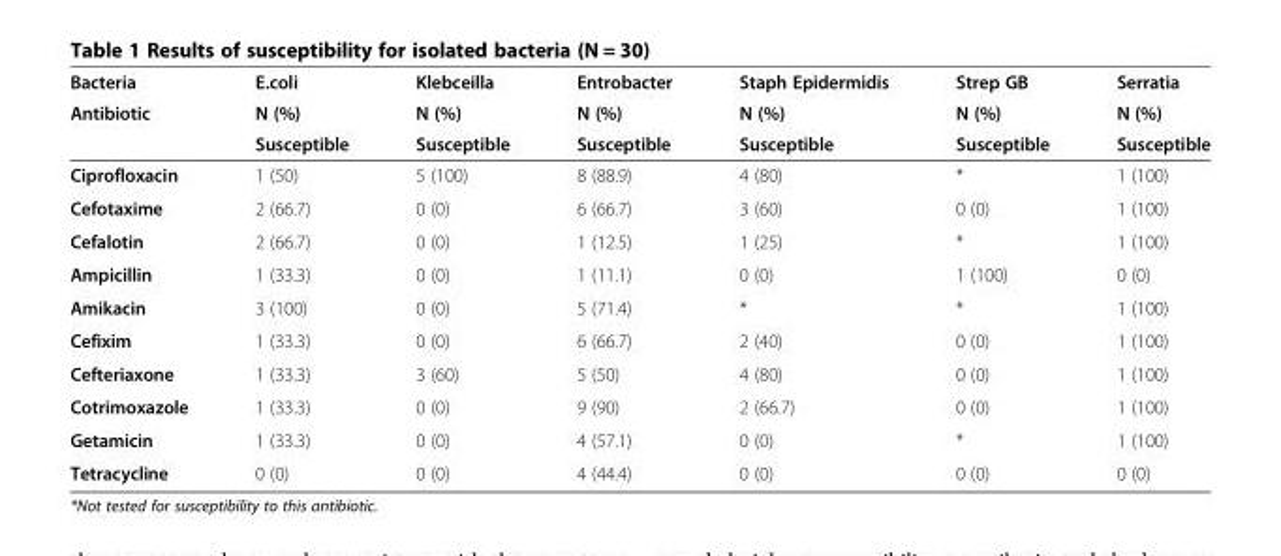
<table><thead><tr><td rowspan="3">Bacteria Antibiotic</td><td rowspan="3">E.coli N (%) Susceptible</td><td rowspan="3">Klebceilla N (%) Susceptible</td><td rowspan="3">Entrobacter N (%) Susceptible</td><td rowspan="3">Staph Epidermidis N (%) Susceptible</td><td rowspan="3">Strep GB N (%) Susceptible</td><td rowspan="3">Serratia N (%) Susceptible</td></tr><tr></tr><tr></tr></thead><tbody><tr><td>Ciprofloxacin</td><td>1 (50)</td><td>5 (100)</td><td>8 (88.9)</td><td>4 (80)</td><td>*</td><td>1 (100)</td></tr><tr><td>Cefotaxime</td><td>2 (66.7)</td><td>0 (0)</td><td>6 (66.7)</td><td>3 (60)</td><td>0 (0)</td><td>1 (100)</td></tr><tr><td>Cefalotin</td><td>2 (66.7)</td><td>0 (0)</td><td>1 (12.5)</td><td>1 (25)</td><td>*</td><td>1 (100)</td></tr><tr><td>Ampicillin</td><td>1 (33.3)</td><td>0 (0)</td><td>1 (11.1)</td><td>0 (0)</td><td>1 (100)</td><td>0 (0)</td></tr><tr><td>Amikacin</td><td>3 (100)</td><td>0 (0)</td><td>5 (71.4)</td><td>*</td><td>*</td><td>1 (100)</td></tr><tr><td>Cefixim</td><td>1 (33.3)</td><td>0 (0)</td><td>6 (66.7)</td><td>2 (40)</td><td>0 (0)</td><td>1 (100)</td></tr><tr><td>Cefteriaxone</td><td>1 (33.3)</td><td>3 (60)</td><td>5 (50)</td><td>4 (80)</td><td>0 (0)</td><td>1 (100)</td></tr><tr><td>Cotrimoxazole</td><td>1 (33.3)</td><td>0 (0)</td><td>9 (90)</td><td>2 (66.7)</td><td>0 (0)</td><td>1 (100)</td></tr><tr><td>Getamicin</td><td>1 (33.3)</td><td>0 (0)</td><td>4 (57.1)</td><td>0 (0)</td><td>*</td><td>1 (100)</td></tr><tr><td>Tetracycline</td><td>0 (0)</td><td>0 (0)</td><td>4 (44.4)</td><td>0 (0)</td><td>0 (0)</td><td>0 (0)</td></tr></tbody></table>